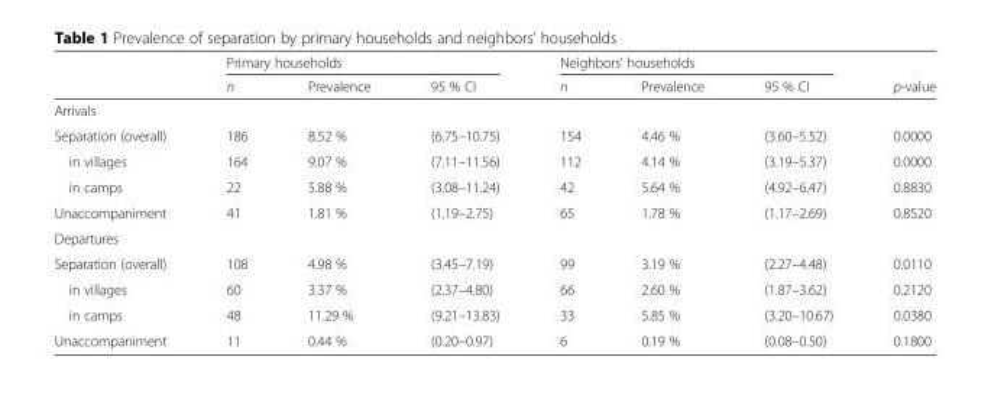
<table><thead><tr><td rowspan="2"></td><td colspan="3">Primary households</td><td colspan="3">Neighbors’ households</td><td rowspan="2">p-value</td></tr><tr><td>n</td><td>Prevalence</td><td>95 % CI</td><td>n</td><td>Prevalence</td><td>95 % CI</td></tr></thead><tbody><tr><td colspan="8">Arrivals</td></tr><tr><td>Separation (overall)</td><td>186</td><td>8.52 %</td><td>(6.75–10.75)</td><td>154</td><td>4.46 %</td><td>(3.60–5.52)</td><td>0.0000</td></tr><tr><td>in villages</td><td>164</td><td>9.07 %</td><td>(7.11–11.56)</td><td>112</td><td>4.14 %</td><td>(3.19–5.37)</td><td>0.0000</td></tr><tr><td>in camps</td><td>22</td><td>5.88 %</td><td>(3.08–11.24)</td><td>42</td><td>5.64 %</td><td>(4.92–6.47)</td><td>0.8830</td></tr><tr><td>Unaccompaniment</td><td>41</td><td>1.81 %</td><td>(1.19–2.75)</td><td>65</td><td>1.78 %</td><td>(1.17–2.69)</td><td>0.8520</td></tr><tr><td colspan="8">Departures</td></tr><tr><td>Separation (overall)</td><td>108</td><td>4.98 %</td><td>(3.45–7.19)</td><td>99</td><td>3.19 %</td><td>(2.27–4.48)</td><td>0.0110</td></tr><tr><td>in villages</td><td>60</td><td>3.37 %</td><td>(2.37–4.80)</td><td>66</td><td>2.60 %</td><td>(1.87–3.62)</td><td>0.2120</td></tr><tr><td>in camps</td><td>48</td><td>11.29 %</td><td>(9.21–13.83)</td><td>33</td><td>5.85 %</td><td>(3.20–10.67)</td><td>0.0380</td></tr><tr><td>Unaccompaniment</td><td>11</td><td>0.44 %</td><td>(0.20–0.97)</td><td>6</td><td>0.19 %</td><td>(0.08–0.50)</td><td>0.1800</td></tr></tbody></table>